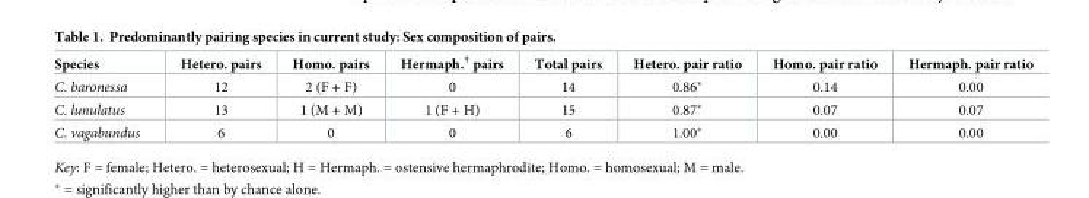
<table><thead><tr><td>Species</td><td>Hetero. pairs</td><td>Homo. pairs</td><td>Hermaph.† pairs</td><td>Total pairs</td><td>Hetero. pair ratio</td><td>Homo. pair ratio</td><td>Hermaph. pair ratio</td></tr></thead><tbody><tr><td>C. baronessa</td><td>12</td><td>2 (F + F)</td><td>0</td><td>14</td><td>0.86*</td><td>0.14</td><td>0.00</td></tr><tr><td>C. lunulatus</td><td>13</td><td>1 (M + M)</td><td>1 (F + H)</td><td>15</td><td>0.87*</td><td>0.07</td><td>0.07</td></tr><tr><td>C. vagabundus</td><td>6</td><td>0</td><td>0</td><td>6</td><td>1.00*</td><td>0.00</td><td>0.00</td></tr></tbody></table>